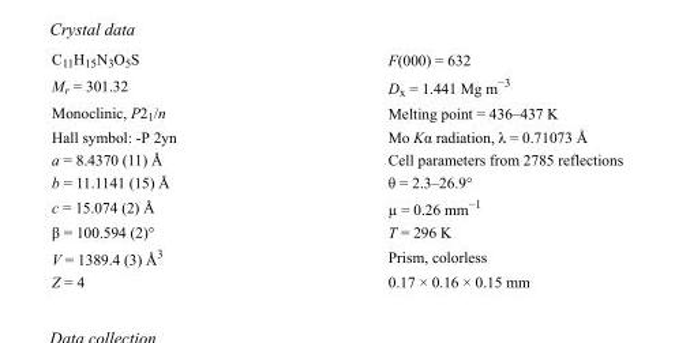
<table><tbody><tr><td>C<sub>11</sub>H<sub>15</sub>N<sub>3</sub>O<sub>5</sub>S</td><td>F(000) = 632</td></tr><tr><td>M<sub>r</sub> = 301.32</td><td>D<sub>x</sub> = 1.441 Mg m<sup>−3</sup></td></tr><tr><td>Monoclinic, P2<sub>1</sub>/n</td><td>Melting point = 436–437 K</td></tr><tr><td>Hall symbol: -P 2yn</td><td>Mo Kα radiation, λ = 0.71073 Å</td></tr><tr><td>a = 8.4370 (11) Å</td><td>Cell parameters from 2785 reflections</td></tr><tr><td>b = 11.1141 (15) Å</td><td>θ = 2.3–26.9°</td></tr><tr><td>c = 15.074 (2) Å</td><td>µ = 0.26 mm<sup>−1</sup></td></tr><tr><td>β = 100.594 (2)°</td><td>T = 296 K</td></tr><tr><td>V = 1389.4 (3) Å<sup>3</sup></td><td>Prism, colorless</td></tr><tr><td>Z = 4</td><td>0.17 × 0.16 × 0.15 mm</td></tr></tbody></table>